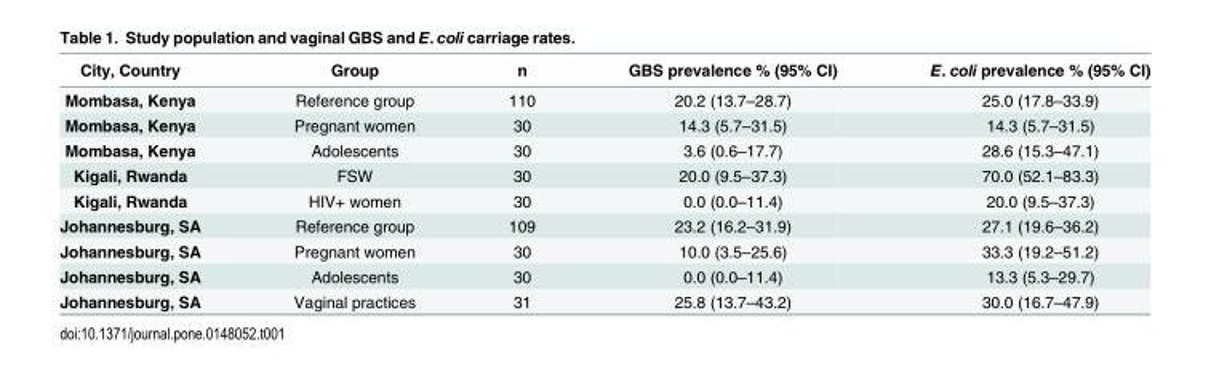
<table><thead><tr><td>City, Country</td><td>Group</td><td>n</td><td>GBS prevalence % (95% CI)</td><td>E. coli prevalence % (95% CI)</td></tr></thead><tbody><tr><td>Mombasa, Kenya</td><td>Reference group</td><td>110</td><td>20.2 (13.7–28.7)</td><td>25.0 (17.8–33.9)</td></tr><tr><td>Mombasa, Kenya</td><td>Pregnant women</td><td>30</td><td>14.3 (5.7–31.5)</td><td>14.3 (5.7–31.5)</td></tr><tr><td>Mombasa, Kenya</td><td>Adolescents</td><td>30</td><td>3.6 (0.6–17.7)</td><td>28.6 (15.3–47.1)</td></tr><tr><td>Kigali, Rwanda</td><td>FSW</td><td>30</td><td>20.0 (9.5–37.3)</td><td>70.0 (52.1–83.3)</td></tr><tr><td>Kigali, Rwanda</td><td>HIV+ women</td><td>30</td><td>0.0 (0.0–11.4)</td><td>20.0 (9.5–37.3)</td></tr><tr><td>Johannesburg, SA</td><td>Reference group</td><td>109</td><td>23.2 (16.2–31.9)</td><td>27.1 (19.6–36.2)</td></tr><tr><td>Johannesburg, SA</td><td>Pregnant women</td><td>30</td><td>10.0 (3.5–25.6)</td><td>33.3 (19.2–51.2)</td></tr><tr><td>Johannesburg, SA</td><td>Adolescents</td><td>30</td><td>0.0 (0.0–11.4)</td><td>13.3 (5.3–29.7)</td></tr><tr><td>Johannesburg, SA</td><td>Vaginal practices</td><td>31</td><td>25.8 (13.7–43.2)</td><td>30.0 (16.7–47.9)</td></tr></tbody></table>